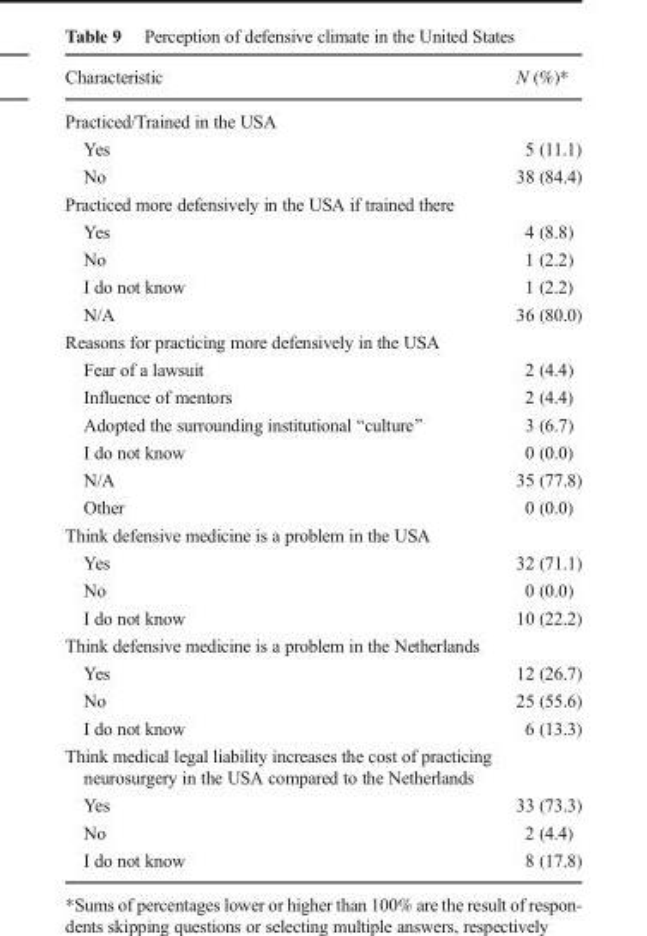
<table><thead><tr><td>Characteristic</td><td>N (%)*</td></tr></thead><tbody><tr><td colspan="2">Practiced/Trained in the USA</td></tr><tr><td>Yes</td><td>5 (11.1)</td></tr><tr><td>No</td><td>38 (84.4)</td></tr><tr><td colspan="2">Practiced more defensively in the USA if trained there</td></tr><tr><td>Yes</td><td>4 (8.8)</td></tr><tr><td>No</td><td>1 (2.2)</td></tr><tr><td>I do not know</td><td>1 (2.2)</td></tr><tr><td>N/A</td><td>36 (80.0)</td></tr><tr><td colspan="2">Reasons for practicing more defensively in the USA</td></tr><tr><td>Fear of a lawsuit</td><td>2 (4.4)</td></tr><tr><td>Influence of mentors</td><td>2 (4.4)</td></tr><tr><td>Adopted the surrounding institutional “culture”</td><td>3 (6.7)</td></tr><tr><td>I do not know</td><td>0 (0.0)</td></tr><tr><td>N/A</td><td>35 (77.8)</td></tr><tr><td>Other</td><td>0 (0.0)</td></tr><tr><td colspan="2">Think defensive medicine is a problem in the USA</td></tr><tr><td>Yes</td><td>32 (71.1)</td></tr><tr><td>No</td><td>0 (0.0)</td></tr><tr><td>I do not know</td><td>10 (22.2)</td></tr><tr><td colspan="2">Think defensive medicine is a problem in the Netherlands</td></tr><tr><td>Yes</td><td>12 (26.7)</td></tr><tr><td>No</td><td>25 (55.6)</td></tr><tr><td>I do not know</td><td>6 (13.3)</td></tr><tr><td colspan="2">Think medical legal liability increases the cost of practicing neurosurgery in the USA compared to the Netherlands</td></tr><tr><td>Yes</td><td>33 (73.3)</td></tr><tr><td>No</td><td>2 (4.4)</td></tr><tr><td>I do not know</td><td>8 (17.8)</td></tr></tbody></table>